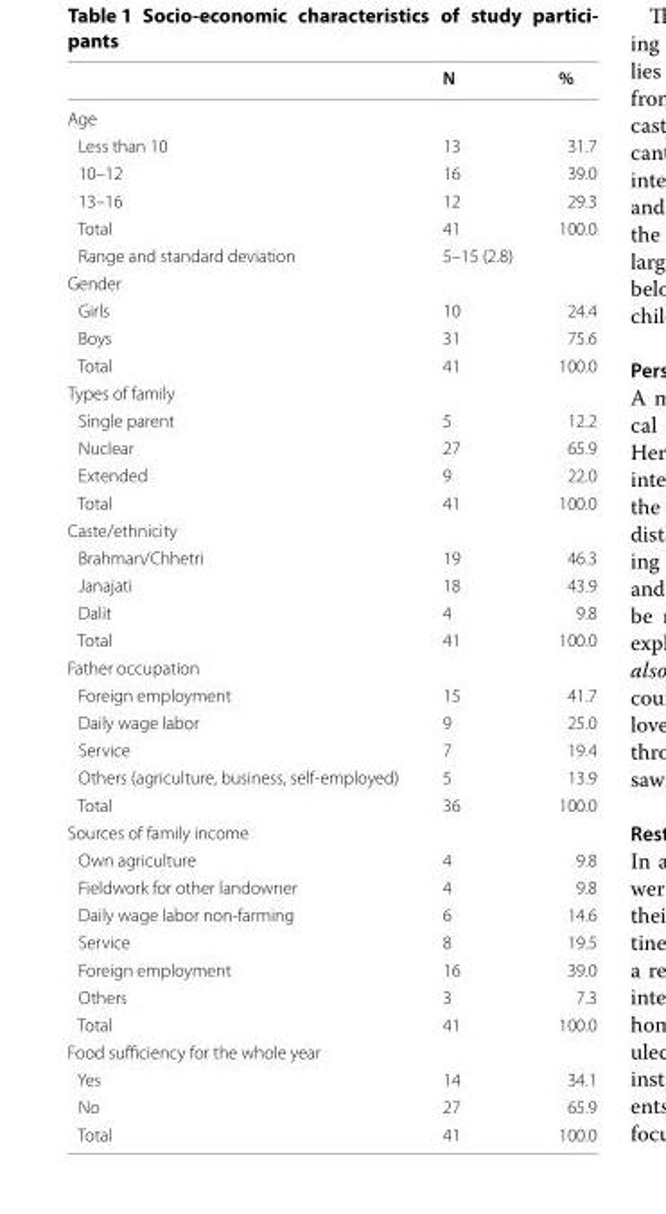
<table><thead><tr><td></td><td>N</td><td>%</td></tr></thead><tbody><tr><td colspan="3">Age</td></tr><tr><td>Less than 10</td><td>13</td><td>31.7</td></tr><tr><td>10–12</td><td>16</td><td>39.0</td></tr><tr><td>13–16</td><td>12</td><td>29.3</td></tr><tr><td>Total</td><td>41</td><td>100.0</td></tr><tr><td>Range and standard deviation</td><td>5–15 (2.8)</td><td></td></tr><tr><td colspan="3">Gender</td></tr><tr><td>Girls</td><td>10</td><td>24.4</td></tr><tr><td>Boys</td><td>31</td><td>75.6</td></tr><tr><td>Total</td><td>41</td><td>100.0</td></tr><tr><td colspan="3">Types of family</td></tr><tr><td>Single parent</td><td>5</td><td>12.2</td></tr><tr><td>Nuclear</td><td>27</td><td>65.9</td></tr><tr><td>Extended</td><td>9</td><td>22.0</td></tr><tr><td>Total</td><td>41</td><td>100.0</td></tr><tr><td colspan="3">Caste/ethnicity</td></tr><tr><td>Brahman/Chhetri</td><td>19</td><td>46.3</td></tr><tr><td>Janajati</td><td>18</td><td>43.9</td></tr><tr><td>Dalit</td><td>4</td><td>9.8</td></tr><tr><td>Total</td><td>41</td><td>100.0</td></tr><tr><td colspan="3">Father occupation</td></tr><tr><td>Foreign employment</td><td>15</td><td>41.7</td></tr><tr><td>Daily wage labor</td><td>9</td><td>25.0</td></tr><tr><td>Service</td><td>7</td><td>19.4</td></tr><tr><td>Others (agriculture, business, self-employed)</td><td>5</td><td>13.9</td></tr><tr><td>Total</td><td>36</td><td>100.0</td></tr><tr><td colspan="3">Sources of family income</td></tr><tr><td>Own agriculture</td><td>4</td><td>9.8</td></tr><tr><td>Fieldwork for other landowner</td><td>4</td><td>9.8</td></tr><tr><td>Daily wage labor non-farming</td><td>6</td><td>14.6</td></tr><tr><td>Service</td><td>8</td><td>19.5</td></tr><tr><td>Foreign employment</td><td>16</td><td>39.0</td></tr><tr><td>Others</td><td>3</td><td>7.3</td></tr><tr><td>Total</td><td>41</td><td>100.0</td></tr><tr><td colspan="3">Food sufficiency for the whole year</td></tr><tr><td>Yes</td><td>14</td><td>34.1</td></tr><tr><td>No</td><td>27</td><td>65.9</td></tr><tr><td>Total</td><td>41</td><td>100.0</td></tr></tbody></table>